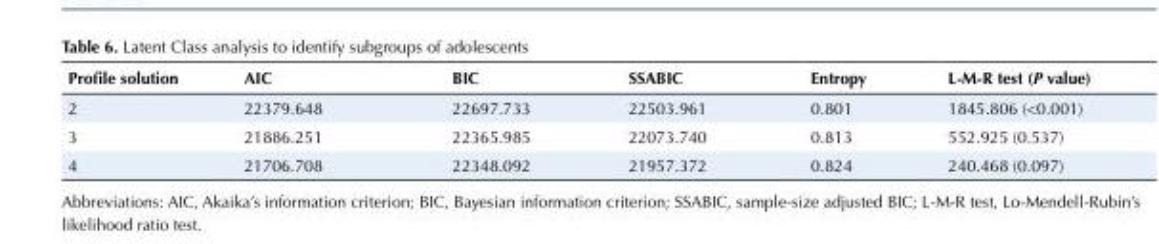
<table><tbody><tr><td>Profile solution</td><td>AIC</td><td>BIC</td><td>SSABIC</td><td>Entropy</td><td>L-M-R test (P value)</td></tr><tr><td>2</td><td>22379.648</td><td>22697.733</td><td>22503.961</td><td>0.801</td><td>1845.806 (&lt;0.001)</td></tr><tr><td>3</td><td>21886.251</td><td>22365.985</td><td>22073.740</td><td>0.813</td><td>552.925 (0.537)</td></tr><tr><td>4</td><td>21706.708</td><td>22348.092</td><td>21957.372</td><td>0.824</td><td>240.468 (0.097)</td></tr></tbody></table>